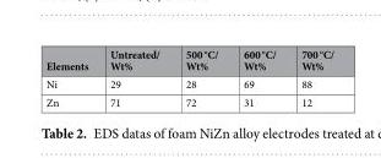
<table><thead><tr><td>Elements</td><td>Untreated/ Wt%</td><td>500 °C/ Wt%</td><td>600 °C/ Wt%</td><td>700 °C/ Wt%</td></tr></thead><tbody><tr><td>Ni</td><td>29</td><td>28</td><td>69</td><td>88</td></tr><tr><td>Zn</td><td>71</td><td>72</td><td>31</td><td>12</td></tr></tbody></table>